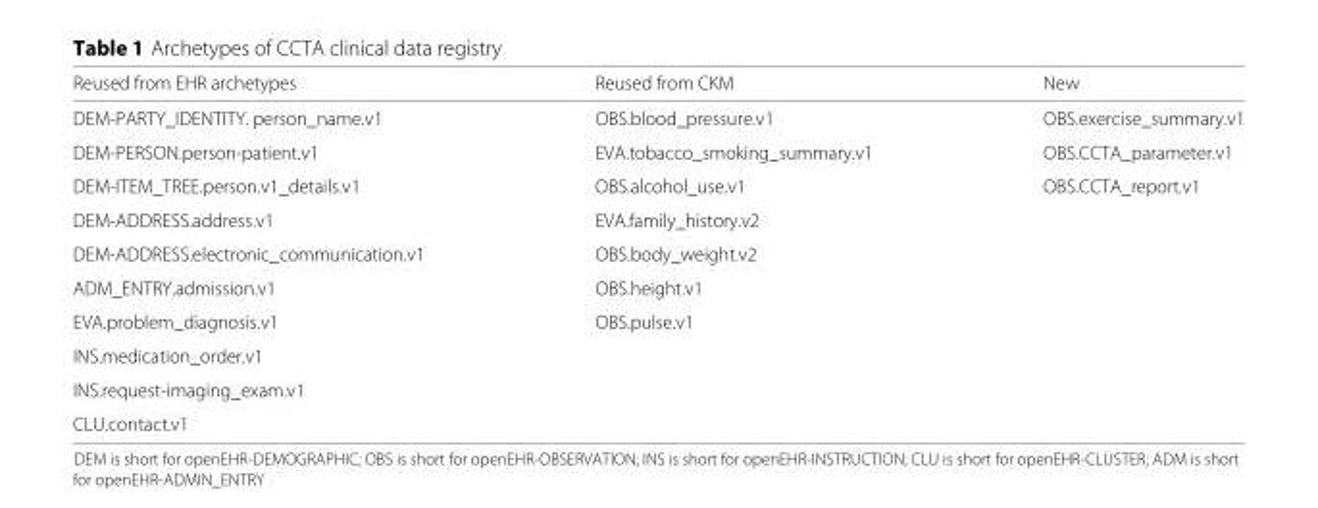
<table><thead><tr><td>Reused from EHR archetypes</td><td>Reused from CKM</td><td>New</td></tr></thead><tbody><tr><td>DEM-PARTY_IDENTITY. person_name.v1</td><td>OBS.blood_pressure.v1</td><td>OBS.exercise_summary.v1</td></tr><tr><td>DEM-PERSON.person-patient.v1</td><td>EVA.tobacco_smoking_summary.v1</td><td>OBS.CCTA_parameter.v1</td></tr><tr><td>DEM-ITEM_TREE.person.v1_details.v1</td><td>OBS.alcohol_use.v1</td><td>OBS.CCTA_report.v1</td></tr><tr><td>DEM-ADDRESS.address.v1</td><td>EVA.family_history.v2</td><td></td></tr><tr><td>DEM-ADDRESS.electronic_communication.v1</td><td>OBS.body_weight.v2</td><td></td></tr><tr><td>ADM_ENTRY.admission.v1</td><td>OBS.height.v1</td><td></td></tr><tr><td>EVA.problem_diagnosis.v1</td><td>OBS.pulse.v1</td><td></td></tr><tr><td colspan="3">INS.medication_order.v1</td></tr><tr><td colspan="3">INS.request-imaging_exam.v1</td></tr><tr><td>CLU.contact.v1</td><td></td><td></td></tr></tbody></table>